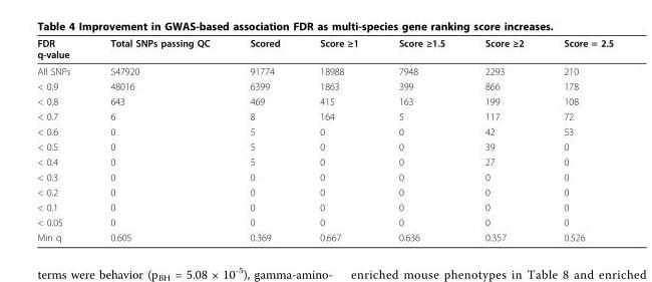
<table><thead><tr><td>FDR q-value</td><td>Total SNPs passing QC</td><td>Scored</td><td>Score ≥1</td><td>Score ≥1.5</td><td>Score ≥2</td><td>Score = 2.5</td></tr></thead><tbody><tr><td>All SNPs</td><td>547920</td><td>91774</td><td>18988</td><td>7948</td><td>2293</td><td>210</td></tr><tr><td>&lt; 0.9</td><td>48016</td><td>6399</td><td>1863</td><td>399</td><td>866</td><td>178</td></tr><tr><td>&lt; 0.8</td><td>643</td><td>469</td><td>415</td><td>163</td><td>199</td><td>108</td></tr><tr><td>&lt; 0.7</td><td>6</td><td>8</td><td>164</td><td>5</td><td>117</td><td>72</td></tr><tr><td>&lt; 0.6</td><td>0</td><td>5</td><td>0</td><td>0</td><td>42</td><td>53</td></tr><tr><td>&lt; 0.5</td><td>0</td><td>5</td><td>0</td><td>0</td><td>39</td><td>0</td></tr><tr><td>&lt; 0.4</td><td>0</td><td>5</td><td>0</td><td>0</td><td>27</td><td>0</td></tr><tr><td>&lt; 0.3</td><td>0</td><td>0</td><td>0</td><td>0</td><td>0</td><td>0</td></tr><tr><td>&lt; 0.2</td><td>0</td><td>0</td><td>0</td><td>0</td><td>0</td><td>0</td></tr><tr><td>&lt; 0.1</td><td>0</td><td>0</td><td>0</td><td>0</td><td>0</td><td>0</td></tr><tr><td>&lt; 0.05</td><td>0</td><td>0</td><td>0</td><td>0</td><td>0</td><td>0</td></tr><tr><td>Min q</td><td>0.605</td><td>0.369</td><td>0.667</td><td>0.636</td><td>0.357</td><td>0.526</td></tr></tbody></table>